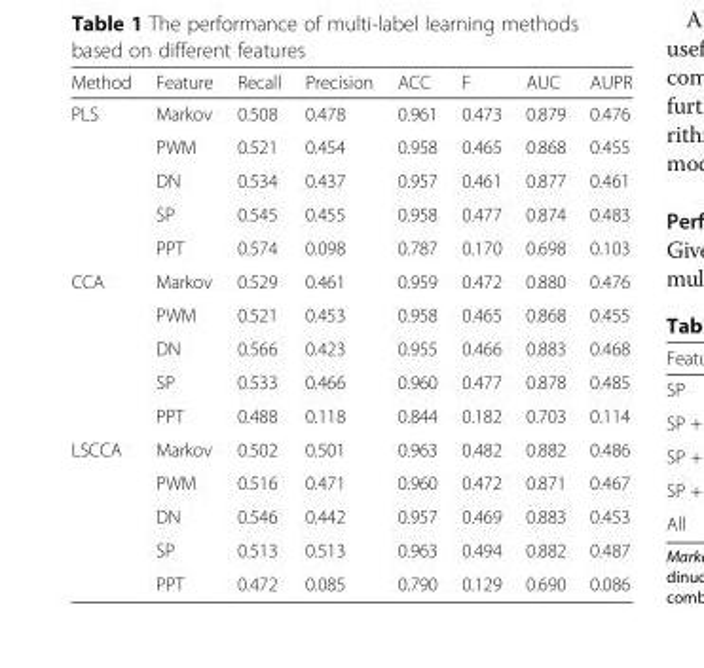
<table><thead><tr><td>Method</td><td>Feature</td><td>Recall</td><td>Precision</td><td>ACC</td><td>F</td><td>AUC</td><td>AUPR</td></tr></thead><tbody><tr><td rowspan="5">PLS</td><td>Markov</td><td>0.508</td><td>0.478</td><td>0.961</td><td>0.473</td><td>0.879</td><td>0.476</td></tr><tr><td>PWM</td><td>0.521</td><td>0.454</td><td>0.958</td><td>0.465</td><td>0.868</td><td>0.455</td></tr><tr><td>DN</td><td>0.534</td><td>0.437</td><td>0.957</td><td>0.461</td><td>0.877</td><td>0.461</td></tr><tr><td>SP</td><td>0.545</td><td>0.455</td><td>0.958</td><td>0.477</td><td>0.874</td><td>0.483</td></tr><tr><td>PPT</td><td>0.574</td><td>0.098</td><td>0.787</td><td>0.170</td><td>0.698</td><td>0.103</td></tr><tr><td rowspan="5">CCA</td><td>Markov</td><td>0.529</td><td>0.461</td><td>0.959</td><td>0.472</td><td>0.880</td><td>0.476</td></tr><tr><td>PWM</td><td>0.521</td><td>0.453</td><td>0.958</td><td>0.465</td><td>0.868</td><td>0.455</td></tr><tr><td>DN</td><td>0.566</td><td>0.423</td><td>0.955</td><td>0.466</td><td>0.883</td><td>0.468</td></tr><tr><td>SP</td><td>0.533</td><td>0.466</td><td>0.960</td><td>0.477</td><td>0.878</td><td>0.485</td></tr><tr><td>PPT</td><td>0.488</td><td>0.118</td><td>0.844</td><td>0.182</td><td>0.703</td><td>0.114</td></tr><tr><td rowspan="5">LSCCA</td><td>Markov</td><td>0.502</td><td>0.501</td><td>0.963</td><td>0.482</td><td>0.882</td><td>0.486</td></tr><tr><td>PWM</td><td>0.516</td><td>0.471</td><td>0.960</td><td>0.472</td><td>0.871</td><td>0.467</td></tr><tr><td>DN</td><td>0.546</td><td>0.442</td><td>0.957</td><td>0.469</td><td>0.883</td><td>0.453</td></tr><tr><td>SP</td><td>0.513</td><td>0.513</td><td>0.963</td><td>0.494</td><td>0.882</td><td>0.487</td></tr><tr><td>PPT</td><td>0.472</td><td>0.085</td><td>0.790</td><td>0.129</td><td>0.690</td><td>0.086</td></tr></tbody></table>